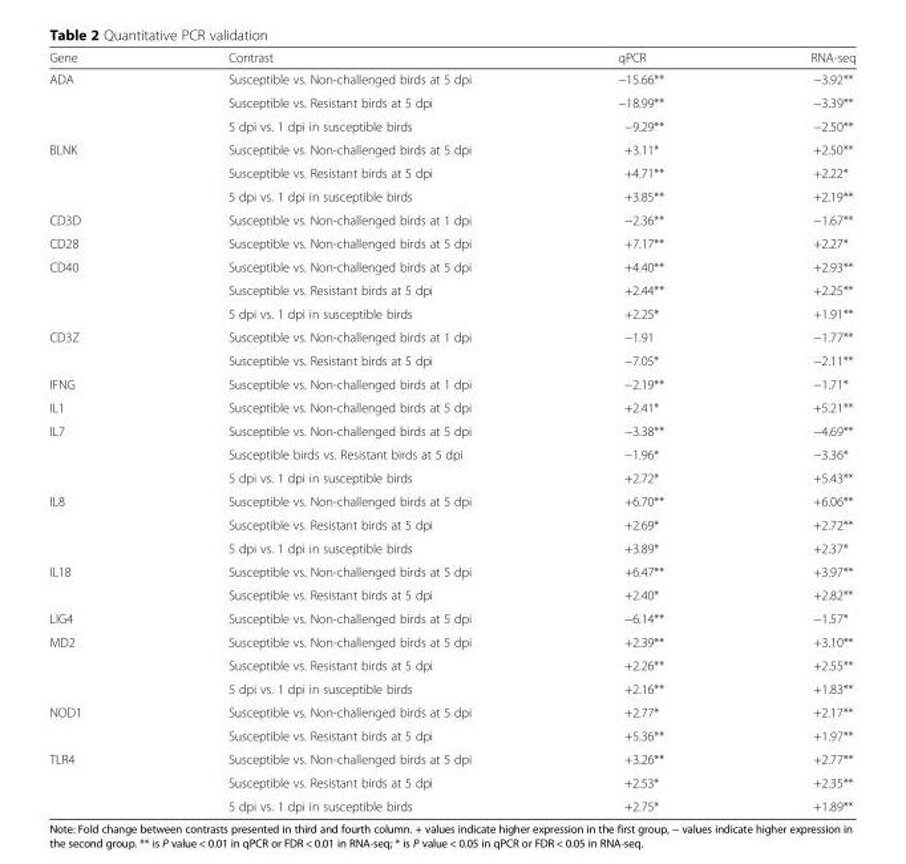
<table><thead><tr><td>Gene</td><td>Contrast</td><td>qPCR</td><td>RNA-seq</td></tr></thead><tbody><tr><td rowspan="3">ADA</td><td>Susceptible vs. Non-challenged birds at 5 dpi</td><td>−15.66**</td><td>−3.92**</td></tr><tr><td>Susceptible vs. Resistant birds at 5 dpi</td><td>−18.99**</td><td>−3.39**</td></tr><tr><td>5 dpi vs. 1 dpi in susceptible birds</td><td>−9.29**</td><td>−2.50**</td></tr><tr><td rowspan="3">BLNK</td><td>Susceptible vs. Non-challenged birds at 5 dpi</td><td>+3.11*</td><td>+2.50**</td></tr><tr><td>Susceptible vs. Resistant birds at 5 dpi</td><td>+4.71**</td><td>+2.22*</td></tr><tr><td>5 dpi vs. 1 dpi in susceptible birds</td><td>+3.85**</td><td>+2.19**</td></tr><tr><td>CD3D</td><td>Susceptible vs. Non-challenged birds at 1 dpi</td><td>−2.36**</td><td>−1.67**</td></tr><tr><td>CD28</td><td>Susceptible vs. Non-challenged birds at 5 dpi</td><td>+7.17**</td><td>+2.27*</td></tr><tr><td rowspan="3">CD40</td><td>Susceptible vs. Non-challenged birds at 5 dpi</td><td>+4.40**</td><td>+2.93**</td></tr><tr><td>Susceptible vs. Resistant birds at 5 dpi</td><td>+2.44**</td><td>+2.25**</td></tr><tr><td>5 dpi vs. 1 dpi in susceptible birds</td><td>+2.25*</td><td>+1.91**</td></tr><tr><td rowspan="2">CD3Z</td><td>Susceptible vs. Non-challenged birds at 1 dpi</td><td>−1.91</td><td>−1.77**</td></tr><tr><td>Susceptible vs. Resistant birds at 5 dpi</td><td>−7.05*</td><td>−2.11**</td></tr><tr><td>IFNG</td><td>Susceptible vs. Non-challenged birds at 1 dpi</td><td>−2.19**</td><td>−1.71*</td></tr><tr><td>IL1</td><td>Susceptible vs. Non-challenged birds at 5 dpi</td><td>+2.41*</td><td>+5.21**</td></tr><tr><td rowspan="3">IL7</td><td>Susceptible vs. Non-challenged birds at 5 dpi</td><td>−3.38**</td><td>−4.69**</td></tr><tr><td>Susceptible birds vs. Resistant birds at 5 dpi</td><td>−1.96*</td><td>−3.36*</td></tr><tr><td>5 dpi vs. 1 dpi in susceptible birds</td><td>+2.72*</td><td>+5.43**</td></tr><tr><td rowspan="3">IL8</td><td>Susceptible vs. Non-challenged birds at 5 dpi</td><td>+6.70**</td><td>+6.06**</td></tr><tr><td>Susceptible vs. Resistant birds at 5 dpi</td><td>+2.69*</td><td>+2.72**</td></tr><tr><td>5 dpi vs. 1 dpi in susceptible birds</td><td>+3.89*</td><td>+2.37*</td></tr><tr><td rowspan="2">IL18</td><td>Susceptible vs. Non-challenged birds at 5 dpi</td><td>+6.47**</td><td>+3.97**</td></tr><tr><td>Susceptible vs. Resistant birds at 5 dpi</td><td>+2.40*</td><td>+2.82**</td></tr><tr><td>LIG4</td><td>Susceptible vs. Non-challenged birds at 5 dpi</td><td>−6.14**</td><td>−1.57*</td></tr><tr><td rowspan="3">MD2</td><td>Susceptible vs. Non-challenged birds at 5 dpi</td><td>+2.39**</td><td>+3.10**</td></tr><tr><td>Susceptible vs. Resistant birds at 5 dpi</td><td>+2.26**</td><td>+2.55**</td></tr><tr><td>5 dpi vs. 1 dpi in susceptible birds</td><td>+2.16**</td><td>+1.83**</td></tr><tr><td rowspan="2">NOD1</td><td>Susceptible vs. Non-challenged birds at 5 dpi</td><td>+2.77*</td><td>+2.17**</td></tr><tr><td>Susceptible vs. Resistant birds at 5 dpi</td><td>+5.36**</td><td>+1.97**</td></tr><tr><td rowspan="3">TLR4</td><td>Susceptible vs. Non-challenged birds at 5 dpi</td><td>+3.26**</td><td>+2.77**</td></tr><tr><td>Susceptible vs. Resistant birds at 5 dpi</td><td>+2.53*</td><td>+2.35**</td></tr><tr><td>5 dpi vs. 1 dpi in susceptible birds</td><td>+2.75*</td><td>+1.89**</td></tr></tbody></table>